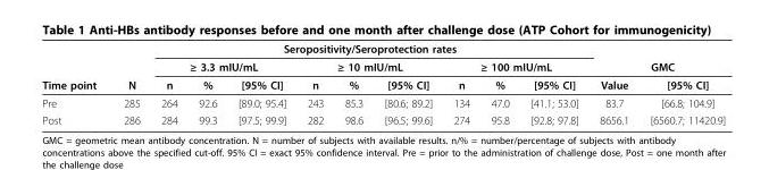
<table><thead><tr><td rowspan="3">Time point</td><td rowspan="3">N</td><td colspan="9">Seropositivity/Seroprotection rates</td><td></td><td></td></tr><tr><td colspan="3">≥ 3.3 mIU/mL</td><td colspan="3">≥ 10 mIU/mL</td><td colspan="3">≥ 100 mIU/mL</td><td colspan="2">GMC</td></tr><tr><td>n</td><td>%</td><td>[95% CI]</td><td>n</td><td>%</td><td>[95% CI]</td><td>n</td><td>%</td><td>[95% CI]</td><td>Value</td><td>[95% CI]</td></tr></thead><tbody><tr><td>Pre</td><td>285</td><td>264</td><td>92.6</td><td>[89.0; 95.4]</td><td>243</td><td>85.3</td><td>[80.6; 89.2]</td><td>134</td><td>47.0</td><td>[41.1; 53.0]</td><td>83.7</td><td>[66.8; 104.9]</td></tr><tr><td>Post</td><td>286</td><td>284</td><td>99.3</td><td>[97.5; 99.9]</td><td>282</td><td>98.6</td><td>[96.5; 99.6]</td><td>274</td><td>95.8</td><td>[92.8; 97.8]</td><td>8656.1</td><td>[6560.7; 11420.9]</td></tr></tbody></table>